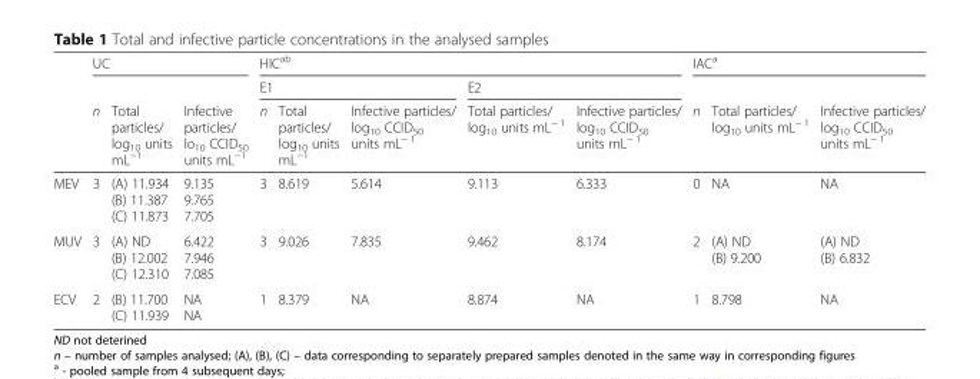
<table><thead><tr><td rowspan="3"></td><td colspan="3">UC</td><td colspan="5">HIC<sup>ab</sup></td><td colspan="3">IAC<sup>a</sup></td></tr><tr><td rowspan="2">n</td><td rowspan="2">Total particles/ log<sub>10</sub> units mL<sup>−1</sup></td><td rowspan="2">Infective particles/ lo<sub>10</sub> CCID<sub>50</sub> units mL<sup>−1</sup></td><td colspan="3">E1</td><td colspan="2">E2</td><td rowspan="2">n</td><td rowspan="2">Total particles/ log<sub>10</sub> units mL<sup>− 1</sup></td><td rowspan="2">Infective particles/ log<sub>10</sub> CCID<sub>50</sub> units mL<sup>− 1</sup></td></tr><tr><td>n</td><td>Total particles/ log<sub>10</sub> units mL<sup>−1</sup></td><td>Infective particles/ log<sub>10</sub> CCID<sub>50</sub> units mL<sup>− 1</sup></td><td>Total particles/ log<sub>10</sub> units mL<sup>− 1</sup></td><td>Infective particles/ log<sub>10</sub> CCID<sub>50</sub> units mL<sup>− 1</sup></td></tr></thead><tbody><tr><td>MEV</td><td>3</td><td>(A) 11.934 (B) 11.387 (C) 11.873</td><td>9.135 9.765 7.705</td><td>3</td><td>8.619</td><td>5.614</td><td>9.113</td><td>6.333</td><td>0</td><td>NA</td><td>NA</td></tr><tr><td>MUV</td><td>3</td><td>(A) ND (B) 12.002 (C) 12.310</td><td>6.422 7.946 7.085</td><td>3</td><td>9.026</td><td>7.835</td><td>9.462</td><td>8.174</td><td>2</td><td>(A) ND (B) 9.200</td><td>(A) ND (B) 6.832</td></tr><tr><td>ECV</td><td>2</td><td>(B) 11.700 (C) 11.939</td><td>NA NA</td><td>1</td><td>8.379</td><td>NA</td><td>8.874</td><td>NA</td><td>1</td><td>8.798</td><td>NA</td></tr></tbody></table>